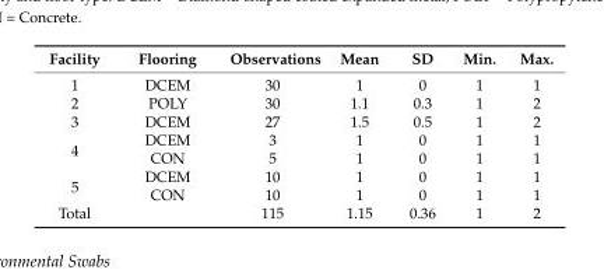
<table><thead><tr><td>Facility</td><td>Flooring</td><td>Observations</td><td>Mean</td><td>SD</td><td>Min.</td><td>Max.</td></tr></thead><tbody><tr><td>1</td><td>DCEM</td><td>30</td><td>1</td><td>0</td><td>1</td><td>1</td></tr><tr><td>2</td><td>POLY</td><td>30</td><td>1.1</td><td>0.3</td><td>1</td><td>2</td></tr><tr><td>3</td><td>DCEM</td><td>27</td><td>1.5</td><td>0.5</td><td>1</td><td>2</td></tr><tr><td rowspan="2">4</td><td>DCEM</td><td>3</td><td>1</td><td>0</td><td>1</td><td>1</td></tr><tr><td>CON</td><td>5</td><td>1</td><td>0</td><td>1</td><td>1</td></tr><tr><td rowspan="2">5</td><td>DCEM</td><td>10</td><td>1</td><td>0</td><td>1</td><td>1</td></tr><tr><td>CON</td><td>10</td><td>1</td><td>0</td><td>1</td><td>1</td></tr><tr><td>Total</td><td></td><td>115</td><td>1.15</td><td>0.36</td><td>1</td><td>2</td></tr></tbody></table>